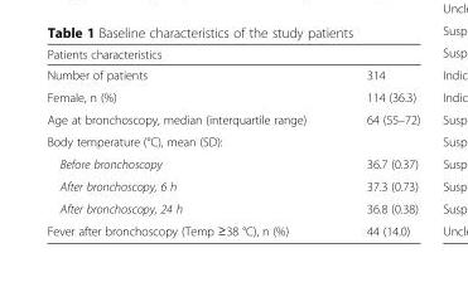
<table><thead><tr><td>Patients characteristics</td><td></td></tr></thead><tbody><tr><td>Number of patients</td><td>314</td></tr><tr><td>Female, n (%)</td><td>114 (36.3)</td></tr><tr><td>Age at bronchoscopy, median (interquartile range)</td><td>64 (55–72)</td></tr><tr><td colspan="2">Body temperature (°C), mean (SD):</td></tr><tr><td>Before bronchoscopy</td><td>36.7 (0.37)</td></tr><tr><td>After bronchoscopy, 6 h</td><td>37.3 (0.73)</td></tr><tr><td>After bronchoscopy, 24 h</td><td>36.8 (0.38)</td></tr><tr><td>Fever after bronchoscopy (Temp ≥38 °C), n (%)</td><td>44 (14.0)</td></tr></tbody></table>